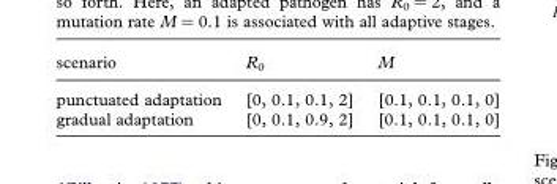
<table><thead><tr><td>scenario</td><td>R<sub>0</sub></td><td>M</td></tr></thead><tbody><tr><td>punctuated adaptation</td><td>[0, 0.1, 0.1, 2]</td><td>[0.1, 0.1, 0.1, 0]</td></tr><tr><td>gradual adaptation</td><td>[0, 0.1, 0.9, 2]</td><td>[0.1, 0.1, 0.1, 0]</td></tr></tbody></table>